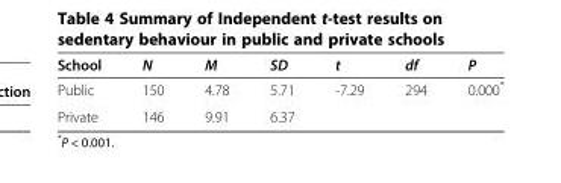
<table><thead><tr><td>School</td><td>N</td><td>M</td><td>SD</td><td>t</td><td>df</td><td>P</td></tr></thead><tbody><tr><td>Public</td><td>150</td><td>4.78</td><td>5.71</td><td>-7.29</td><td>294</td><td>0.000*</td></tr><tr><td>Private</td><td>146</td><td>9.91</td><td>6.37</td><td></td><td></td><td></td></tr></tbody></table>